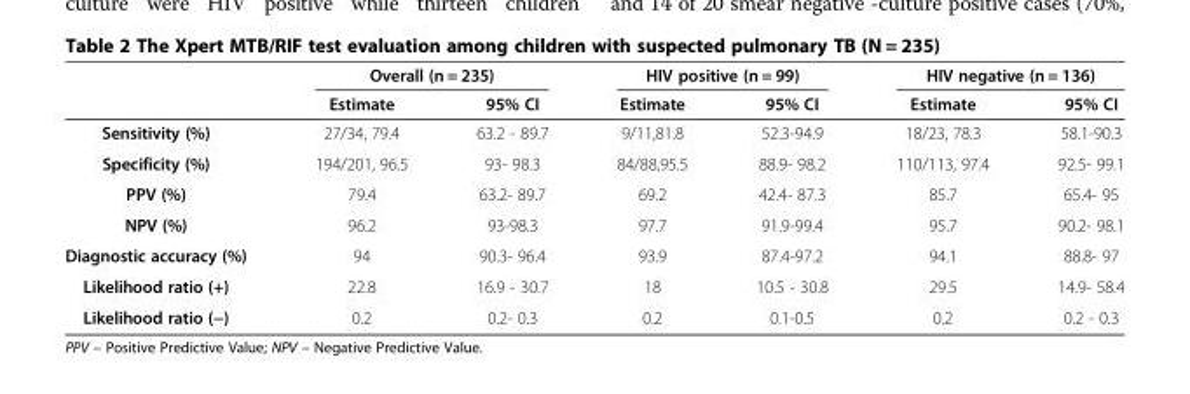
<table><thead><tr><td rowspan="2"></td><td colspan="2">Overall (n = 235)</td><td colspan="2">HIV positive (n = 99)</td><td colspan="2">HIV negative (n = 136)</td></tr><tr><td>Estimate</td><td>95% CI</td><td>Estimate</td><td>95% CI</td><td>Estimate</td><td>95% CI</td></tr></thead><tbody><tr><td>Sensitivity (%)</td><td>27/34, 79.4</td><td>63.2 - 89.7</td><td>9/11,81.8</td><td>52.3-94.9</td><td>18/23, 78.3</td><td>58.1-90.3</td></tr><tr><td>Specificity (%)</td><td>194/201, 96.5</td><td>93- 98.3</td><td>84/88,95.5</td><td>88.9- 98.2</td><td>110/113, 97.4</td><td>92.5- 99.1</td></tr><tr><td>PPV (%)</td><td>79.4</td><td>63.2- 89.7</td><td>69.2</td><td>42.4- 87.3</td><td>85.7</td><td>65.4- 95</td></tr><tr><td>NPV (%)</td><td>96.2</td><td>93-98.3</td><td>97.7</td><td>91.9-99.4</td><td>95.7</td><td>90.2- 98.1</td></tr><tr><td>Diagnostic accuracy (%)</td><td>94</td><td>90.3- 96.4</td><td>93.9</td><td>87.4-97.2</td><td>94.1</td><td>88.8- 97</td></tr><tr><td>Likelihood ratio (+)</td><td>22.8</td><td>16.9 - 30.7</td><td>18</td><td>10.5 - 30.8</td><td>29.5</td><td>14.9- 58.4</td></tr><tr><td>Likelihood ratio (−)</td><td>0.2</td><td>0.2- 0.3</td><td>0.2</td><td>0.1-0.5</td><td>0.2</td><td>0.2 - 0.3</td></tr></tbody></table>